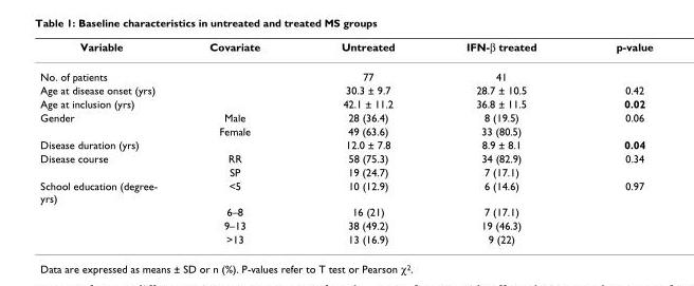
<table><thead><tr><td>Variable</td><td>Covariate</td><td>Untreated</td><td>IFN-β treated</td><td>p-value</td></tr></thead><tbody><tr><td>No. of patients</td><td></td><td>77</td><td>41</td><td></td></tr><tr><td>Age at disease onset (yrs)</td><td></td><td>30.3 ± 9.7</td><td>28.7 ± 10.5</td><td>0.42</td></tr><tr><td>Age at inclusion (yrs)</td><td></td><td>42.1 ± 11.2</td><td>36.8 ± 11.5</td><td>0.02</td></tr><tr><td rowspan="2">Gender</td><td>Male</td><td>28 (36.4)</td><td>8 (19.5)</td><td>0.06</td></tr><tr><td>Female</td><td>49 (63.6)</td><td>33 (80.5)</td><td></td></tr><tr><td>Disease duration (yrs)</td><td></td><td>12.0 ± 7.8</td><td>8.9 ± 8.1</td><td>0.04</td></tr><tr><td rowspan="2">Disease course</td><td>RR</td><td>58 (75.3)</td><td>34 (82.9)</td><td>0.34</td></tr><tr><td>SP</td><td>19 (24.7)</td><td>7 (17.1)</td><td></td></tr><tr><td rowspan="4">School education (degree- yrs)</td><td>&lt;5</td><td>10 (12.9)</td><td>6 (14.6)</td><td>0.97</td></tr><tr><td>6–8</td><td>16 (21)</td><td>7 (17.1)</td><td></td></tr><tr><td>9–13</td><td>38 (49.2)</td><td>19 (46.3)</td><td></td></tr><tr><td>&gt;13</td><td>13 (16.9)</td><td>9 (22)</td><td></td></tr></tbody></table>